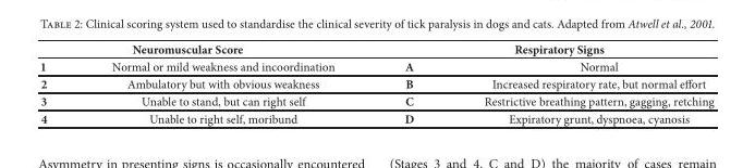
<table><thead><tr><td colspan="2">Neuromuscular Score</td><td colspan="2">Respiratory Signs</td></tr><tr><td>1</td><td>Normal or mild weakness and incoordination</td><td>A</td><td>Normal</td></tr></thead><tbody><tr><td>2</td><td>Ambulatory but with obvious weakness</td><td>B</td><td>Increased respiratory rate, but normal effort</td></tr><tr><td>3</td><td>Unable to stand, but can right self</td><td>C</td><td>Restrictive breathing pattern, gagging, retching</td></tr><tr><td>4</td><td>Unable to right self, moribund</td><td>D</td><td>Expiratory grunt, dyspnoea, cyanosis</td></tr></tbody></table>